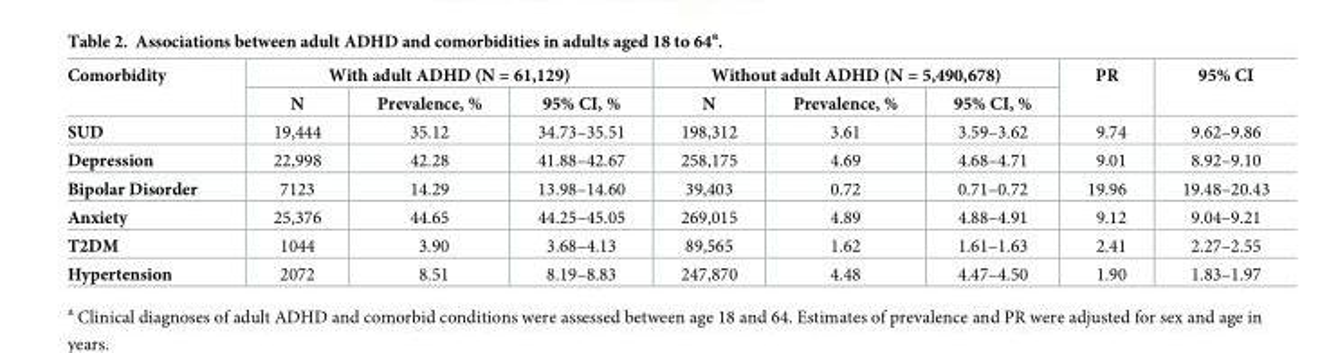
<table><thead><tr><td rowspan="2">Comorbidity</td><td colspan="3">With adult ADHD (N = 61,129)</td><td colspan="3">Without adult ADHD (N = 5,490,678)</td><td rowspan="2">PR</td><td rowspan="2">95% CI</td></tr><tr><td>N</td><td>Prevalence, %</td><td>95% CI, %</td><td>N</td><td>Prevalence, %</td><td>95% CI, %</td></tr></thead><tbody><tr><td>SUD</td><td>19,444</td><td>35.12</td><td>34.73–35.51</td><td>198,312</td><td>3.61</td><td>3.59–3.62</td><td>9.74</td><td>9.62–9.86</td></tr><tr><td>Depression</td><td>22,998</td><td>42.28</td><td>41.88–42.67</td><td>258,175</td><td>4.69</td><td>4.68–4.71</td><td>9.01</td><td>8.92–9.10</td></tr><tr><td>Bipolar Disorder</td><td>7123</td><td>14.29</td><td>13.98–14.60</td><td>39,403</td><td>0.72</td><td>0.71–0.72</td><td>19.96</td><td>19.48–20.43</td></tr><tr><td>Anxiety</td><td>25,376</td><td>44.65</td><td>44.25–45.05</td><td>269,015</td><td>4.89</td><td>4.88–4.91</td><td>9.12</td><td>9.04–9.21</td></tr><tr><td>T2DM</td><td>1044</td><td>3.90</td><td>3.68–4.13</td><td>89,565</td><td>1.62</td><td>1.61–1.63</td><td>2.41</td><td>2.27–2.55</td></tr><tr><td>Hypertension</td><td>2072</td><td>8.51</td><td>8.19–8.83</td><td>247,870</td><td>4.48</td><td>4.47–4.50</td><td>1.90</td><td>1.83–1.97</td></tr></tbody></table>